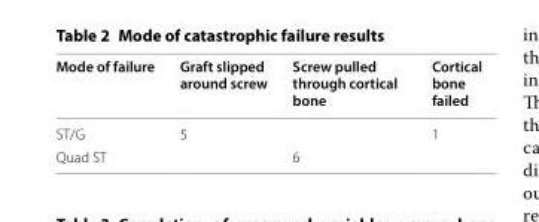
<table><thead><tr><td>Mode of failure</td><td>Graft slipped around screw</td><td>Screw pulled through cortical bone</td><td>Cortical bone failed</td></tr></thead><tbody><tr><td>ST/G</td><td>5</td><td></td><td>1</td></tr><tr><td>Quad ST</td><td></td><td>6</td><td></td></tr></tbody></table>